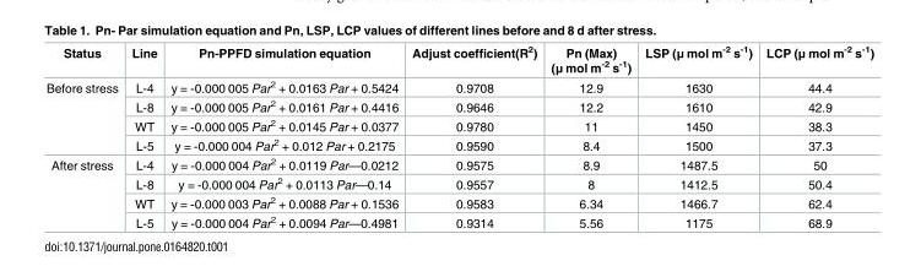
<table><thead><tr><td>Status</td><td>Line</td><td>Pn-PPFD simulation equation</td><td>Adjust coefficient(R<sup>2</sup>)</td><td>Pn (Max) (μ mol m<sup>-2</sup> s<sup>-1</sup>)</td><td>LSP (μ mol m<sup>-2</sup> s<sup>-1</sup>)</td><td>LCP (μ mol m<sup>-2</sup> s<sup>-1</sup>)</td></tr></thead><tbody><tr><td rowspan="4">Before stress</td><td>L-4</td><td>y = -0.000 005 Par<sup>2</sup> + 0.0163 Par + 0.5424</td><td>0.9708</td><td>12.9</td><td>1630</td><td>44.4</td></tr><tr><td>L-8</td><td>y = -0.000 005 Par<sup>2</sup> + 0.0161 Par + 0.4416</td><td>0.9646</td><td>12.2</td><td>1610</td><td>42.9</td></tr><tr><td>WT</td><td>y = -0.000 005 Par<sup>2</sup> + 0.0145 Par + 0.0377</td><td>0.9780</td><td>11</td><td>1450</td><td>38.3</td></tr><tr><td>L-5</td><td>y = -0.000 004 Par<sup>2</sup> + 0.012 Par + 0.2175</td><td>0.9590</td><td>8.4</td><td>1500</td><td>37.3</td></tr><tr><td rowspan="4">After stress</td><td>L-4</td><td>y = -0.000 004 Par<sup>2</sup> + 0.0119 Par—0.0212</td><td>0.9575</td><td>8.9</td><td>1487.5</td><td>50</td></tr><tr><td>L-8</td><td>y = -0.000 004 Par<sup>2</sup> + 0.0113 Par—0.14</td><td>0.9557</td><td>8</td><td>1412.5</td><td>50.4</td></tr><tr><td>WT</td><td>y = -0.000 003 Par<sup>2</sup> + 0.0088 Par + 0.1536</td><td>0.9583</td><td>6.34</td><td>1466.7</td><td>62.4</td></tr><tr><td>L-5</td><td>y = -0.000 004 Par<sup>2</sup> + 0.0094 Par—0.4981</td><td>0.9314</td><td>5.56</td><td>1175</td><td>68.9</td></tr></tbody></table>